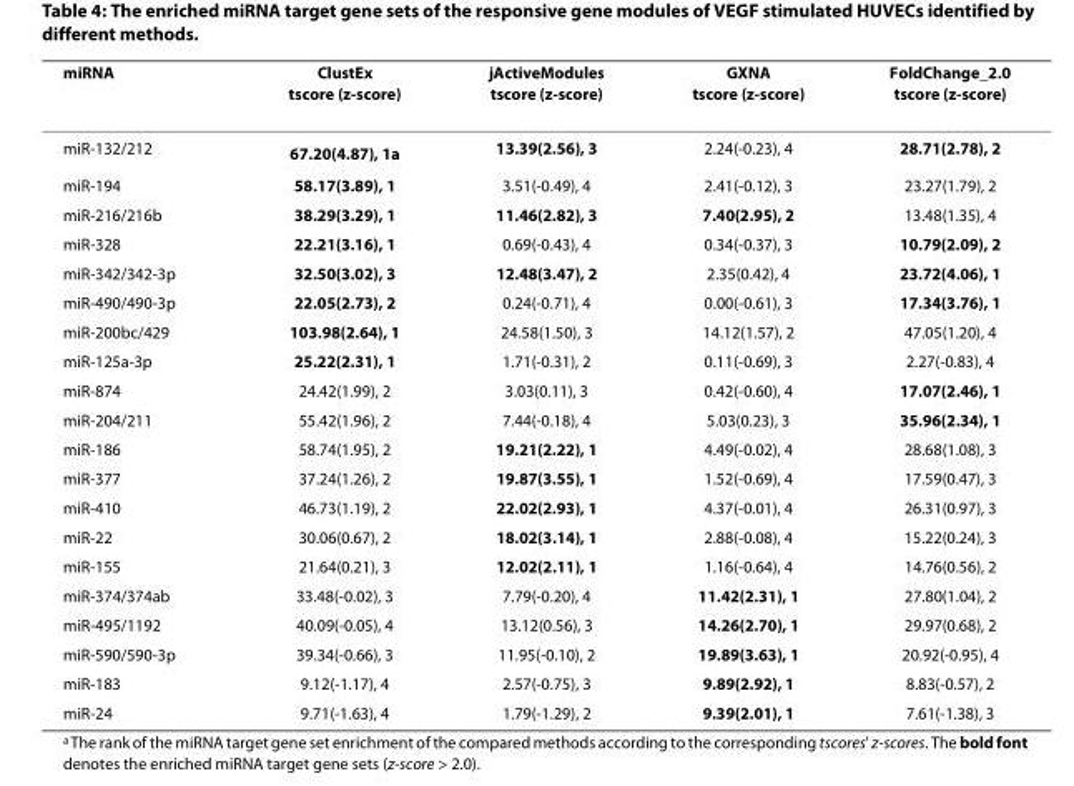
<table><thead><tr><td>miRNA</td><td>ClustEx tscore (z-score)</td><td>jActiveModules tscore (z-score)</td><td>GXNA tscore (z-score)</td><td>FoldChange_2.0 tscore (z-score)</td></tr></thead><tbody><tr><td>miR-132/212</td><td>67.20(4.87), 1<sup>a</sup></td><td>13.39(2.56), 3</td><td>2.24(-0.23), 4</td><td>28.71(2.78), 2</td></tr><tr><td>miR-194</td><td>58.17(3.89), 1</td><td>3.51(-0.49), 4</td><td>2.41(-0.12), 3</td><td>23.27(1.79), 2</td></tr><tr><td>miR-216/216b</td><td>38.29(3.29), 1</td><td>11.46(2.82), 3</td><td>7.40(2.95), 2</td><td>13.48(1.35), 4</td></tr><tr><td>miR-328</td><td>22.21(3.16), 1</td><td>0.69(-0.43), 4</td><td>0.34(-0.37), 3</td><td>10.79(2.09), 2</td></tr><tr><td>miR-342/342-3p</td><td>32.50(3.02), 3</td><td>12.48(3.47), 2</td><td>2.35(0.42), 4</td><td>23.72(4.06), 1</td></tr><tr><td>miR-490/490-3p</td><td>22.05(2.73), 2</td><td>0.24(-0.71), 4</td><td>0.00(-0.61), 3</td><td>17.34(3.76), 1</td></tr><tr><td>miR-200bc/429</td><td>103.98(2.64), 1</td><td>24.58(1.50), 3</td><td>14.12(1.57), 2</td><td>47.05(1.20), 4</td></tr><tr><td>miR-125a-3p</td><td>25.22(2.31), 1</td><td>1.71(-0.31), 2</td><td>0.11(-0.69), 3</td><td>2.27(-0.83), 4</td></tr><tr><td>miR-874</td><td>24.42(1.99), 2</td><td>3.03(0.11), 3</td><td>0.42(-0.60), 4</td><td>17.07(2.46), 1</td></tr><tr><td>miR-204/211</td><td>55.42(1.96), 2</td><td>7.44(-0.18), 4</td><td>5.03(0.23), 3</td><td>35.96(2.34), 1</td></tr><tr><td>miR-186</td><td>58.74(1.95), 2</td><td>19.21(2.22), 1</td><td>4.49(-0.02), 4</td><td>28.68(1.08), 3</td></tr><tr><td>miR-377</td><td>37.24(1.26), 2</td><td>19.87(3.55), 1</td><td>1.52(-0.69), 4</td><td>17.59(0.47), 3</td></tr><tr><td>miR-410</td><td>46.73(1.19), 2</td><td>22.02(2.93), 1</td><td>4.37(-0.01), 4</td><td>26.31(0.97), 3</td></tr><tr><td>miR-22</td><td>30.06(0.67), 2</td><td>18.02(3.14), 1</td><td>2.88(-0.08), 4</td><td>15.22(0.24), 3</td></tr><tr><td>miR-155</td><td>21.64(0.21), 3</td><td>12.02(2.11), 1</td><td>1.16(-0.64), 4</td><td>14.76(0.56), 2</td></tr><tr><td>miR-374/374ab</td><td>33.48(-0.02), 3</td><td>7.79(-0.20), 4</td><td>11.42(2.31), 1</td><td>27.80(1.04), 2</td></tr><tr><td>miR-495/1192</td><td>40.09(-0.05), 4</td><td>13.12(0.56), 3</td><td>14.26(2.70), 1</td><td>29.97(0.68), 2</td></tr><tr><td>miR-590/590-3p</td><td>39.34(-0.66), 3</td><td>11.95(-0.10), 2</td><td>19.89(3.63), 1</td><td>20.92(-0.95), 4</td></tr><tr><td>miR-183</td><td>9.12(-1.17), 4</td><td>2.57(-0.75), 3</td><td>9.89(2.92), 1</td><td>8.83(-0.57), 2</td></tr><tr><td>miR-24</td><td>9.71(-1.63), 4</td><td>1.79(-1.29), 2</td><td>9.39(2.01), 1</td><td>7.61(-1.38), 3</td></tr></tbody></table>